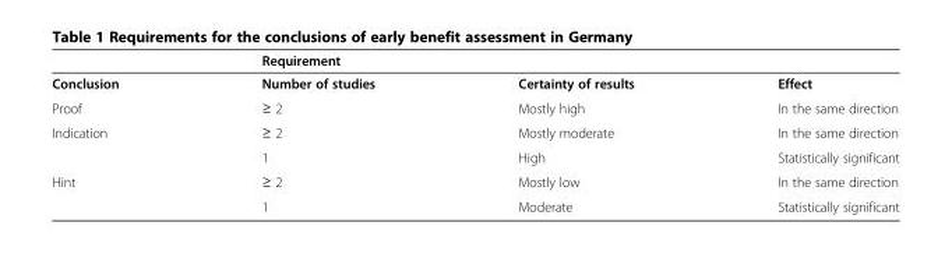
<table><thead><tr><td rowspan="2">Conclusion</td><td colspan="3">Requirement</td></tr><tr><td>Number of studies</td><td>Certainty of results</td><td>Effect</td></tr></thead><tbody><tr><td>Proof</td><td>≥ 2</td><td>Mostly high</td><td>In the same direction</td></tr><tr><td rowspan="2">Indication</td><td>≥ 2</td><td>Mostly moderate</td><td>In the same direction</td></tr><tr><td>1</td><td>High</td><td>Statistically significant</td></tr><tr><td rowspan="2">Hint</td><td>≥ 2</td><td>Mostly low</td><td>In the same direction</td></tr><tr><td>1</td><td>Moderate</td><td>Statistically significant</td></tr></tbody></table>